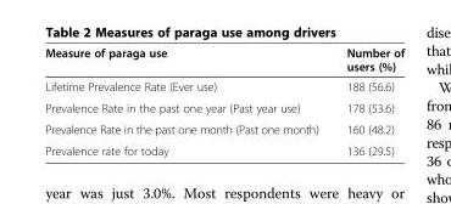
<table><thead><tr><td>Measure of paraga use</td><td>Number of users (%)</td></tr></thead><tbody><tr><td>Lifetime Prevalence Rate (Ever use)</td><td>188 (56.6)</td></tr><tr><td>Prevalence Rate in the past one year (Past year use)</td><td>178 (53.6)</td></tr><tr><td>Prevalence Rate in the past one month (Past one month)</td><td>160 (48.2)</td></tr><tr><td>Prevalence rate for today</td><td>136 (29.5)</td></tr></tbody></table>